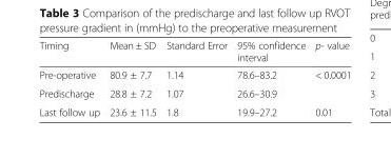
<table><thead><tr><td>Timing</td><td>Mean ± SD</td><td>Standard Error</td><td>95% confidence interval</td><td>p- value</td></tr></thead><tbody><tr><td>Pre-operative</td><td>80.9 ± 7.7</td><td>1.14</td><td>78.6–83.2</td><td rowspan="2">&lt; 0.0001</td></tr><tr><td>Predischarge</td><td>28.8 ± 7.2</td><td>1.07</td><td>26.6–30.9</td></tr><tr><td>Last follow up</td><td>23.6 ± 11.5</td><td>1.8</td><td>19.9–27.2</td><td>0.01</td></tr></tbody></table>